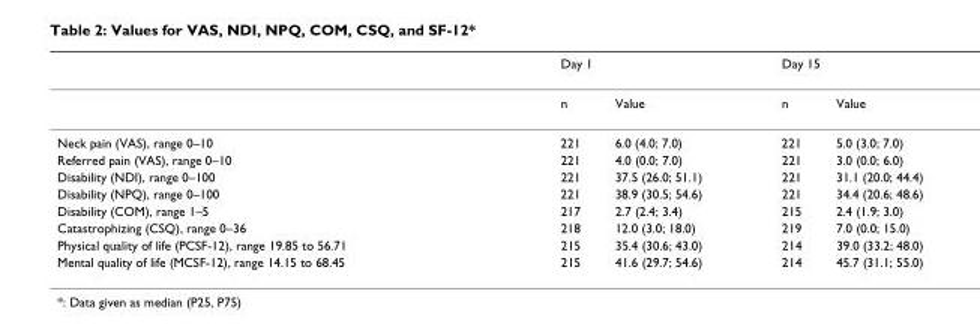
<table><thead><tr><td rowspan="2"></td><td colspan="2">Day 1</td><td colspan="2">Day 15</td></tr><tr><td>n</td><td>Value</td><td>n</td><td>Value</td></tr></thead><tbody><tr><td>Neck pain (VAS), range 0–10</td><td>221</td><td>6.0 (4.0; 7.0)</td><td>221</td><td>5.0 (3.0; 7.0)</td></tr><tr><td>Referred pain (VAS), range 0–10</td><td>221</td><td>4.0 (0.0; 7.0)</td><td>221</td><td>3.0 (0.0; 6.0)</td></tr><tr><td>Disability (NDI), range 0–100</td><td>221</td><td>37.5 (26.0; 51.1)</td><td>221</td><td>31.1 (20.0; 44.4)</td></tr><tr><td>Disability (NPQ), range 0–100</td><td>221</td><td>38.9 (30.5; 54.6)</td><td>221</td><td>34.4 (20.6; 48.6)</td></tr><tr><td>Disability (COM), range 1–5</td><td>217</td><td>2.7 (2.4; 3.4)</td><td>215</td><td>2.4 (1.9; 3.0)</td></tr><tr><td>Catastrophizing (CSQ), range 0–36</td><td>218</td><td>12.0 (3.0; 18.0)</td><td>219</td><td>7.0 (0.0; 15.0)</td></tr><tr><td>Physical quality of life (PCSF-12), range 19.85 to 56.71</td><td>215</td><td>35.4 (30.6; 43.0)</td><td>214</td><td>39.0 (33.2; 48.0)</td></tr><tr><td>Mental quality of life (MCSF-12), range 14.15 to 68.45</td><td>215</td><td>41.6 (29.7; 54.6)</td><td>214</td><td>45.7 (31.1; 55.0)</td></tr></tbody></table>